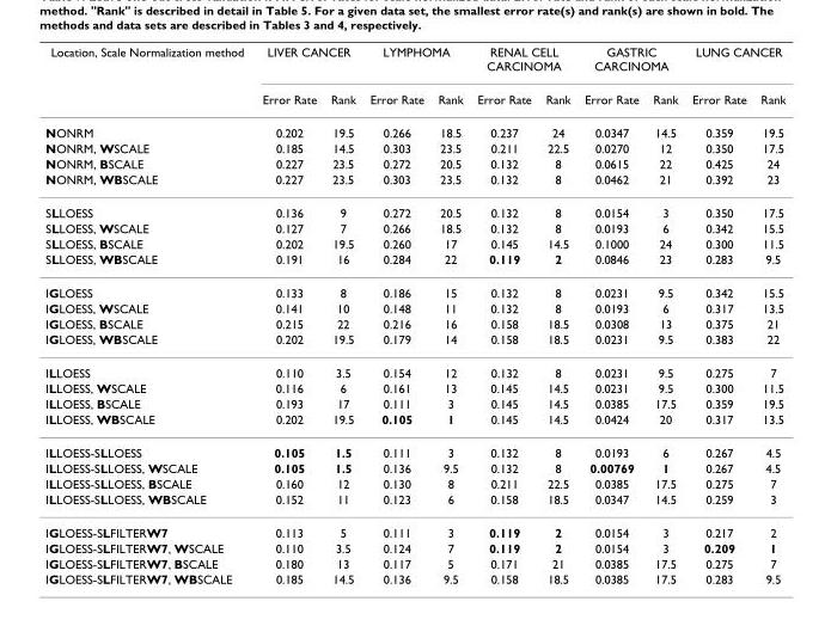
<table><thead><tr><td rowspan="2">Location, Scale Normalization method</td><td colspan="2">LIVER CANCER</td><td colspan="2">LYMPHOMA</td><td colspan="2">RENAL CELL CARCINOMA</td><td colspan="2">GASTRIC CARCINOMA</td><td colspan="2">LUNG CANCER</td></tr><tr><td>Error Rate</td><td>Rank</td><td>Error Rate</td><td>Rank</td><td>Error Rate</td><td>Rank</td><td>Error Rate</td><td>Rank</td><td>Error Rate</td><td>Rank</td></tr></thead><tbody><tr><td>NONRM</td><td>0.202</td><td>19.5</td><td>0.266</td><td>18.5</td><td>0.237</td><td>24</td><td>0.0347</td><td>14.5</td><td>0.359</td><td>19.5</td></tr><tr><td>NONRM, WSCALE</td><td>0.185</td><td>14.5</td><td>0.303</td><td>23.5</td><td>0.211</td><td>22.5</td><td>0.0270</td><td>12</td><td>0.350</td><td>17.5</td></tr><tr><td>NONRM, BSCALE</td><td>0.227</td><td>23.5</td><td>0.272</td><td>20.5</td><td>0.132</td><td>8</td><td>0.0615</td><td>22</td><td>0.425</td><td>24</td></tr><tr><td>NONRM, WBSCALE</td><td>0.227</td><td>23.5</td><td>0.303</td><td>23.5</td><td>0.132</td><td>8</td><td>0.0462</td><td>21</td><td>0.392</td><td>23</td></tr><tr><td>SLLOESS</td><td>0.136</td><td>9</td><td>0.272</td><td>20.5</td><td>0.132</td><td>8</td><td>0.0154</td><td>3</td><td>0.350</td><td>17.5</td></tr><tr><td>SLLOESS, WSCALE</td><td>0.127</td><td>7</td><td>0.266</td><td>18.5</td><td>0.132</td><td>8</td><td>0.0193</td><td>6</td><td>0.342</td><td>15.5</td></tr><tr><td>SLLOESS, BSCALE</td><td>0.202</td><td>19.5</td><td>0.260</td><td>17</td><td>0.145</td><td>14.5</td><td>0.1000</td><td>24</td><td>0.300</td><td>11.5</td></tr><tr><td>SLLOESS, WBSCALE</td><td>0.191</td><td>16</td><td>0.284</td><td>22</td><td>0.119</td><td>2</td><td>0.0846</td><td>23</td><td>0.283</td><td>9.5</td></tr><tr><td>IGLOESS</td><td>0.133</td><td>8</td><td>0.186</td><td>15</td><td>0.132</td><td>8</td><td>0.0231</td><td>9.5</td><td>0.342</td><td>15.5</td></tr><tr><td>IGLOESS, WSCALE</td><td>0.141</td><td>10</td><td>0.148</td><td>11</td><td>0.132</td><td>8</td><td>0.0193</td><td>6</td><td>0.317</td><td>13.5</td></tr><tr><td>IGLOESS, BSCALE</td><td>0.215</td><td>22</td><td>0.216</td><td>16</td><td>0.158</td><td>18.5</td><td>0.0308</td><td>13</td><td>0.375</td><td>21</td></tr><tr><td>IGLOESS, WBSCALE</td><td>0.202</td><td>19.5</td><td>0.179</td><td>14</td><td>0.158</td><td>18.5</td><td>0.0231</td><td>9.5</td><td>0.383</td><td>22</td></tr><tr><td>ILLOESS</td><td>0.110</td><td>3.5</td><td>0.154</td><td>12</td><td>0.132</td><td>8</td><td>0.0231</td><td>9.5</td><td>0.275</td><td>7</td></tr><tr><td>ILLOESS, WSCALE</td><td>0.116</td><td>6</td><td>0.161</td><td>13</td><td>0.145</td><td>14.5</td><td>0.0231</td><td>9.5</td><td>0.300</td><td>11.5</td></tr><tr><td>ILLOESS, BSCALE</td><td>0.193</td><td>17</td><td>0.111</td><td>3</td><td>0.145</td><td>14.5</td><td>0.0385</td><td>17.5</td><td>0.359</td><td>19.5</td></tr><tr><td>ILLOESS, WBSCALE</td><td>0.202</td><td>19.5</td><td>0.105</td><td>1</td><td>0.145</td><td>14.5</td><td>0.0424</td><td>20</td><td>0.317</td><td>13.5</td></tr><tr><td>ILLOESS-SLLOESS</td><td>0.105</td><td>1.5</td><td>0.111</td><td>3</td><td>0.132</td><td>8</td><td>0.0193</td><td>6</td><td>0.267</td><td>4.5</td></tr><tr><td>ILLOESS-SLLOESS, WSCALE</td><td>0.105</td><td>1.5</td><td>0.136</td><td>9.5</td><td>0.132</td><td>8</td><td>0.00769</td><td>1</td><td>0.267</td><td>4.5</td></tr><tr><td>ILLOESS-SLLOESS, BSCALE</td><td>0.160</td><td>12</td><td>0.130</td><td>8</td><td>0.211</td><td>22.5</td><td>0.0385</td><td>17.5</td><td>0.275</td><td>7</td></tr><tr><td>ILLOESS-SLLOESS, WBSCALE</td><td>0.152</td><td>11</td><td>0.123</td><td>6</td><td>0.158</td><td>18.5</td><td>0.0347</td><td>14.5</td><td>0.259</td><td>3</td></tr><tr><td>IGLOESS-SLFILTERW7</td><td>0.113</td><td>5</td><td>0.111</td><td>3</td><td>0.119</td><td>2</td><td>0.0154</td><td>3</td><td>0.217</td><td>2</td></tr><tr><td>IGLOESS-SLFILTERW7, WSCALE</td><td>0.110</td><td>3.5</td><td>0.124</td><td>7</td><td>0.119</td><td>2</td><td>0.0154</td><td>3</td><td>0.209</td><td>1</td></tr><tr><td>IGLOESS-SLFILTERW7, BSCALE</td><td>0.180</td><td>13</td><td>0.117</td><td>5</td><td>0.171</td><td>21</td><td>0.0385</td><td>17.5</td><td>0.275</td><td>7</td></tr><tr><td>IGLOESS-SLFILTERW7, WBSCALE</td><td>0.185</td><td>14.5</td><td>0.136</td><td>9.5</td><td>0.158</td><td>18.5</td><td>0.0385</td><td>17.5</td><td>0.283</td><td>9.5</td></tr></tbody></table>